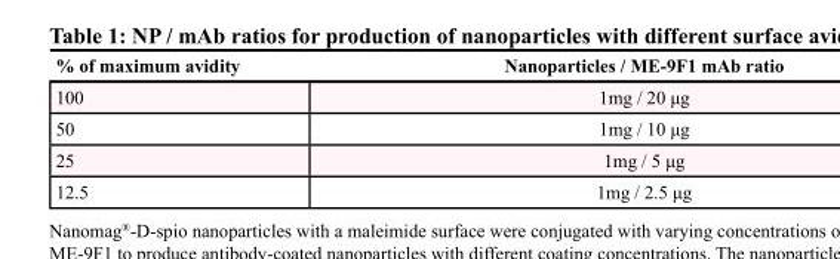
<table><thead><tr><td>% of maximum avidity</td><td>Nanoparticles / ME-9F1 mAb ratio</td></tr></thead><tbody><tr><td>100</td><td>1mg / 20 μg</td></tr><tr><td>50</td><td>1mg / 10 μg</td></tr><tr><td>25</td><td>1mg / 5 μg</td></tr><tr><td>12.5</td><td>1mg / 2.5 μg</td></tr></tbody></table>